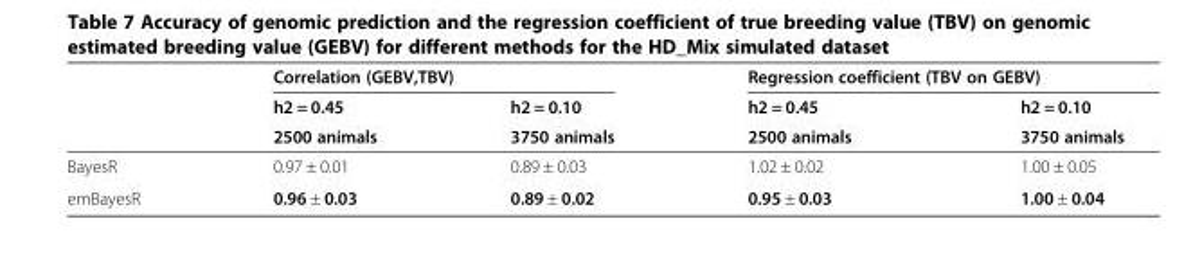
<table><thead><tr><td rowspan="3"></td><td colspan="2">Correlation (GEBV,TBV)</td><td colspan="2">Regression coefficient (TBV on GEBV)</td></tr><tr><td rowspan="2">h2 = 0.45 2500 animals</td><td rowspan="2">h2 = 0.10 3750 animals</td><td rowspan="2">h2 = 0.45 2500 animals</td><td rowspan="2">h2 = 0.10 3750 animals</td></tr><tr></tr></thead><tbody><tr><td>BayesR</td><td>0.97 ± 0.01</td><td>0.89 ± 0.03</td><td>1.02 ± 0.02</td><td>1.00 ± 0.05</td></tr><tr><td>emBayesR</td><td>0.96 ± 0.03</td><td>0.89 ± 0.02</td><td>0.95 ± 0.03</td><td>1.00 ± 0.04</td></tr></tbody></table>